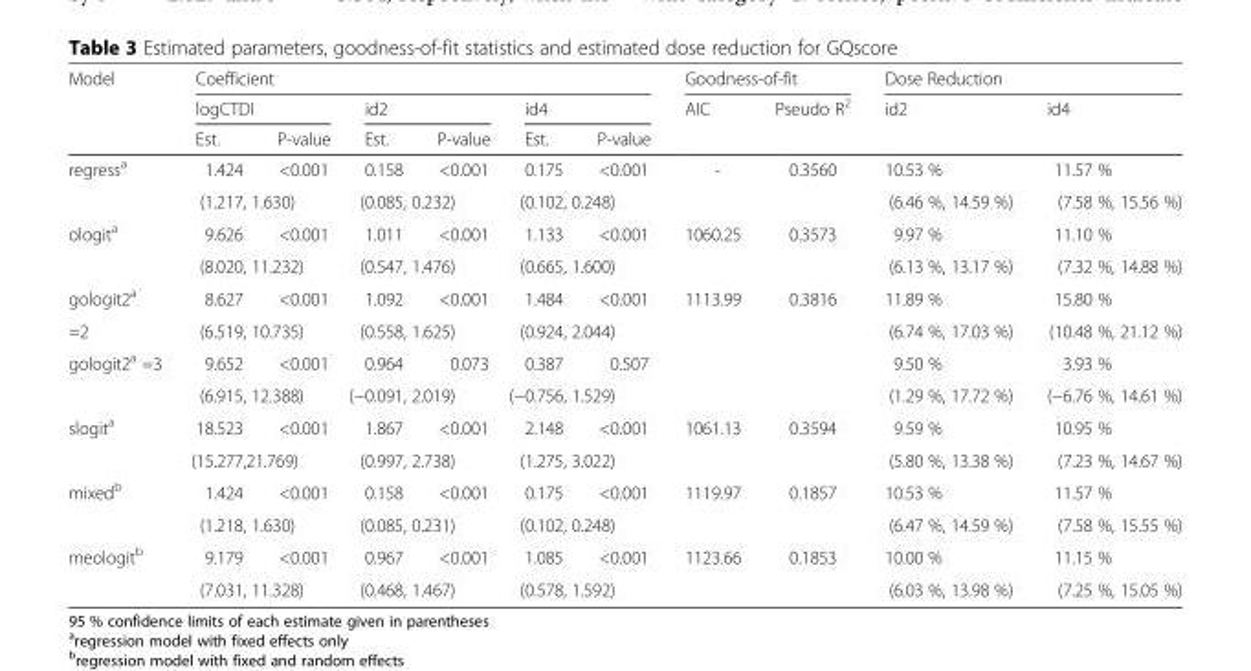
<table><thead><tr><td rowspan="3">Model</td><td colspan="6">Coefficient</td><td colspan="2">Goodness-of-fit</td><td colspan="2">Dose Reduction</td></tr><tr><td colspan="2">logCTDI</td><td colspan="2">id2</td><td colspan="2">id4</td><td rowspan="2">AIC</td><td rowspan="2">Pseudo R<sup>2</sup></td><td rowspan="2">id2</td><td rowspan="2">id4</td></tr><tr><td>Est.</td><td>P-value</td><td>Est.</td><td>P-value</td><td>Est.</td><td>P-value</td></tr></thead><tbody><tr><td rowspan="2">regress<sup>a</sup></td><td>1.424</td><td>&lt;0.001</td><td>0.158</td><td>&lt;0.001</td><td>0.175</td><td>&lt;0.001</td><td rowspan="2">-</td><td rowspan="2">0.3560</td><td>10.53 %</td><td>11.57 %</td></tr><tr><td colspan="2">(1.217, 1.630)</td><td colspan="2">(0.085, 0.232)</td><td colspan="2">(0.102, 0.248)</td><td>(6.46 %, 14.59 %)</td><td>(7.58 %, 15.56 %)</td></tr><tr><td rowspan="2">ologit<sup>a</sup></td><td>9.626</td><td>&lt;0.001</td><td>1.011</td><td>&lt;0.001</td><td>1.133</td><td>&lt;0.001</td><td rowspan="2">1060.25</td><td rowspan="2">0.3573</td><td>9.97 %</td><td>11.10 %</td></tr><tr><td colspan="2">(8.020, 11.232)</td><td colspan="2">(0.547, 1.476)</td><td colspan="2">(0.665, 1.600)</td><td>(6.13 %, 13.17 %)</td><td>(7.32 %, 14.88 %)</td></tr><tr><td>gologit2<sup>a</sup></td><td>8.627</td><td>&lt;0.001</td><td>1.092</td><td>&lt;0.001</td><td>1.484</td><td>&lt;0.001</td><td rowspan="4">1113.99</td><td rowspan="4">0.3816</td><td>11.89 %</td><td>15.80 %</td></tr><tr><td>=2</td><td colspan="2">(6.519, 10.735)</td><td colspan="2">(0.558, 1.625)</td><td colspan="2">(0.924, 2.044)</td><td>(6.74 %, 17.03 %)</td><td>(10.48 %, 21.12 %)</td></tr><tr><td rowspan="2">gologit2<sup>a</sup> =3</td><td>9.652</td><td>&lt;0.001</td><td>0.964</td><td>0.073</td><td>0.387</td><td>0.507</td><td>9.50 %</td><td>3.93 %</td></tr><tr><td colspan="2">(6.915, 12.388)</td><td colspan="2">(−0.091, 2.019)</td><td colspan="2">(−0.756, 1.529)</td><td>(1.29 %, 17.72 %)</td><td>(−6.76 %, 14.61 %)</td></tr><tr><td rowspan="2">slogit<sup>a</sup></td><td>18.523</td><td>&lt;0.001</td><td>1.867</td><td>&lt;0.001</td><td>2.148</td><td>&lt;0.001</td><td rowspan="2">1061.13</td><td rowspan="2">0.3594</td><td>9.59 %</td><td>10.95 %</td></tr><tr><td colspan="2">(15.277,21.769)</td><td colspan="2">(0.997, 2.738)</td><td colspan="2">(1.275, 3.022)</td><td>(5.80 %, 13.38 %)</td><td>(7.23 %, 14.67 %)</td></tr><tr><td rowspan="2">mixed<sup>b</sup></td><td>1.424</td><td>&lt;0.001</td><td>0.158</td><td>&lt;0.001</td><td>0.175</td><td>&lt;0.001</td><td rowspan="2">1119.97</td><td rowspan="2">0.1857</td><td>10.53 %</td><td>11.57 %</td></tr><tr><td colspan="2">(1.218, 1.630)</td><td colspan="2">(0.085, 0.231)</td><td colspan="2">(0.102, 0.248)</td><td>(6.47 %, 14.59 %)</td><td>(7.58 %, 15.55 %)</td></tr><tr><td rowspan="2">meologit<sup>b</sup></td><td>9.179</td><td>&lt;0.001</td><td>0.967</td><td>&lt;0.001</td><td>1.085</td><td>&lt;0.001</td><td rowspan="2">1123.66</td><td rowspan="2">0.1853</td><td>10.00 %</td><td>11.15 %</td></tr><tr><td colspan="2">(7.031, 11.328)</td><td colspan="2">(0.468, 1.467)</td><td colspan="2">(0.578, 1.592)</td><td>(6.03 %, 13.98 %)</td><td>(7.25 %, 15.05 %)</td></tr></tbody></table>